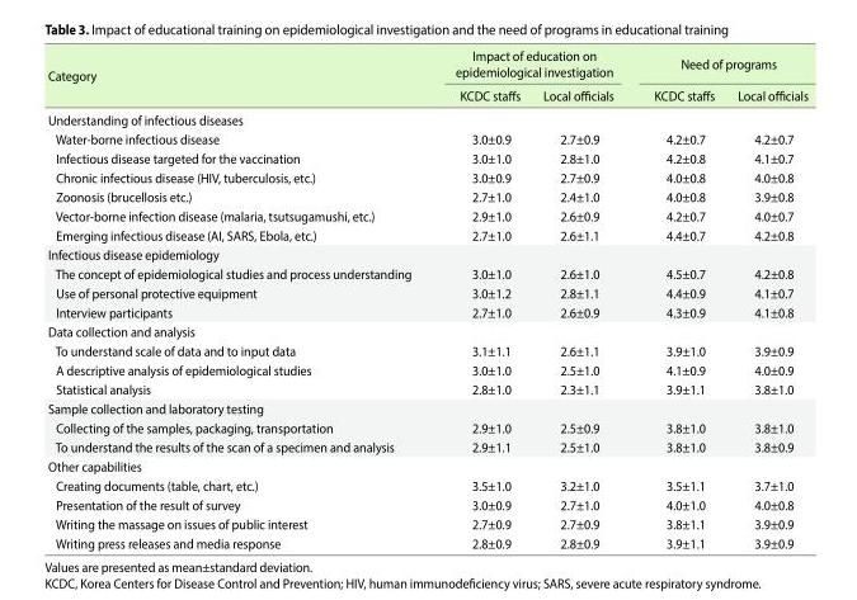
<table><thead><tr><td rowspan="2">Category</td><td colspan="2">Impact of education on epidemiological investigation</td><td colspan="2">Need of programs</td></tr><tr><td>KCDC staffs</td><td>Local officials</td><td>KCDC staffs</td><td>Local officials</td></tr></thead><tbody><tr><td colspan="5">Understanding of infectious diseases</td></tr><tr><td>Water-borne infectious disease</td><td>3.0±0.9</td><td>2.7±0.9</td><td>4.2±0.7</td><td>4.2±0.7</td></tr><tr><td>Infectious disease targeted for the vaccination</td><td>3.0±1.0</td><td>2.8±1.0</td><td>4.2±0.8</td><td>4.1±0.7</td></tr><tr><td>Chronic infectious disease (HIV, tuberculosis, etc.)</td><td>3.0±0.9</td><td>2.7±0.9</td><td>4.0±0.8</td><td>4.0±0.8</td></tr><tr><td>Zoonosis (brucellosis etc.)</td><td>2.7±1.0</td><td>2.4±1.0</td><td>4.0±0.8</td><td>3.9±0.8</td></tr><tr><td>Vector-borne infection disease (malaria, tsutsugamushi, etc.)</td><td>2.9±1.0</td><td>2.6±0.9</td><td>4.2±0.7</td><td>4.0±0.7</td></tr><tr><td>Emerging infectious disease (AI, SARS, Ebola, etc.)</td><td>2.7±1.0</td><td>2.6±1.1</td><td>4.4±0.7</td><td>4.2±0.8</td></tr><tr><td colspan="5">Infectious disease epidemiology</td></tr><tr><td>The concept of epidemiological studies and process understanding</td><td>3.0±1.0</td><td>2.6±1.0</td><td>4.5±0.7</td><td>4.2±0.8</td></tr><tr><td>Use of personal protective equipment</td><td>3.0±1.2</td><td>2.8±1.1</td><td>4.4±0.9</td><td>4.1±0.7</td></tr><tr><td>Interview participants</td><td>2.7±1.0</td><td>2.6±0.9</td><td>4.3±0.9</td><td>4.1±0.8</td></tr><tr><td colspan="5">Data collection and analysis</td></tr><tr><td>To understand scale of data and to input data</td><td>3.1±1.1</td><td>2.6±1.1</td><td>3.9±1.0</td><td>3.9±0.9</td></tr><tr><td>A descriptive analysis of epidemiological studies</td><td>3.0±1.0</td><td>2.5±1.0</td><td>4.1±0.9</td><td>4.0±0.9</td></tr><tr><td>Statistical analysis</td><td>2.8±1.0</td><td>2.3±1.1</td><td>3.9±1.1</td><td>3.8±1.0</td></tr><tr><td colspan="5">Sample collection and laboratory testing</td></tr><tr><td>Collecting of the samples, packaging, transportation</td><td>2.9±1.0</td><td>2.5±0.9</td><td>3.8±1.0</td><td>3.8±1.0</td></tr><tr><td>To understand the results of the scan of a specimen and analysis</td><td>2.9±1.1</td><td>2.5±1.0</td><td>3.8±1.0</td><td>3.8±0.9</td></tr><tr><td colspan="5">Other capabilities</td></tr><tr><td>Creating documents (table, chart, etc.)</td><td>3.5±1.0</td><td>3.2±1.0</td><td>3.5±1.1</td><td>3.7±1.0</td></tr><tr><td>Presentation of the result of survey</td><td>3.0±0.9</td><td>2.7±1.0</td><td>4.0±1.0</td><td>4.0±0.8</td></tr><tr><td>Writing the massage on issues of public interest</td><td>2.7±0.9</td><td>2.7±0.9</td><td>3.8±1.1</td><td>3.9±0.9</td></tr><tr><td>Writing press releases and media response</td><td>2.8±0.9</td><td>2.8±0.9</td><td>3.9±1.1</td><td>3.9±0.9</td></tr></tbody></table>